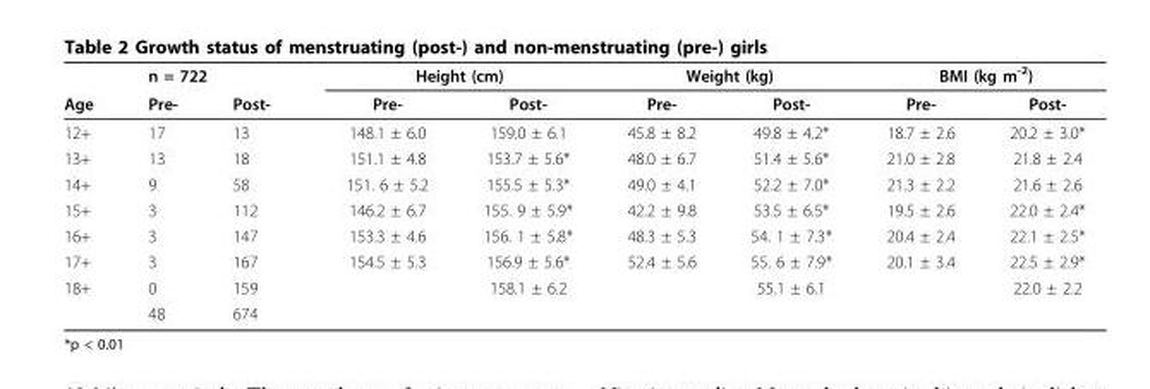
<table><thead><tr><td rowspan="2">Age</td><td colspan="2">n = 722</td><td colspan="2">Height (cm)</td><td colspan="2">Weight (kg)</td><td colspan="2">BMI (kg m<sup>-2</sup>)</td></tr><tr><td>Pre-</td><td>Post-</td><td>Pre-</td><td>Post-</td><td>Pre-</td><td>Post-</td><td>Pre-</td><td>Post-</td></tr></thead><tbody><tr><td>12+</td><td>17</td><td>13</td><td>148.1 ± 6.0</td><td>159.0 ± 6.1</td><td>45.8 ± 8.2</td><td>49.8 ± 4.2*</td><td>18.7 ± 2.6</td><td>20.2 ± 3.0*</td></tr><tr><td>13+</td><td>13</td><td>18</td><td>151.1 ± 4.8</td><td>153.7 ± 5.6*</td><td>48.0 ± 6.7</td><td>51.4 ± 5.6*</td><td>21.0 ± 2.8</td><td>21.8 ± 2.4</td></tr><tr><td>14+</td><td>9</td><td>58</td><td>151. 6 ± 5.2</td><td>155.5 ± 5.3*</td><td>49.0 ± 4.1</td><td>52.2 ± 7.0*</td><td>21.3 ± 2.2</td><td>21.6 ± 2.6</td></tr><tr><td>15+</td><td>3</td><td>112</td><td>146.2 ± 6.7</td><td>155. 9 ± 5.9*</td><td>42.2 ± 9.8</td><td>53.5 ± 6.5*</td><td>19.5 ± 2.6</td><td>22.0 ± 2.4*</td></tr><tr><td>16+</td><td>3</td><td>147</td><td>153.3 ± 4.6</td><td>156. 1 ± 5.8*</td><td>48.3 ± 5.3</td><td>54. 1 ± 7.3*</td><td>20.4 ± 2.4</td><td>22.1 ± 2.5*</td></tr><tr><td>17+</td><td>3</td><td>167</td><td>154.5 ± 5.3</td><td>156.9 ± 5.6*</td><td>52.4 ± 5.6</td><td>55. 6 ± 7.9*</td><td>20.1 ± 3.4</td><td>22.5 ± 2.9*</td></tr><tr><td rowspan="2">18+</td><td>0</td><td>159</td><td></td><td>158.1 ± 6.2</td><td></td><td>55.1 ± 6.1</td><td></td><td>22.0 ± 2.2</td></tr><tr><td>48</td><td>674</td><td></td><td></td><td></td><td></td><td></td><td></td></tr></tbody></table>